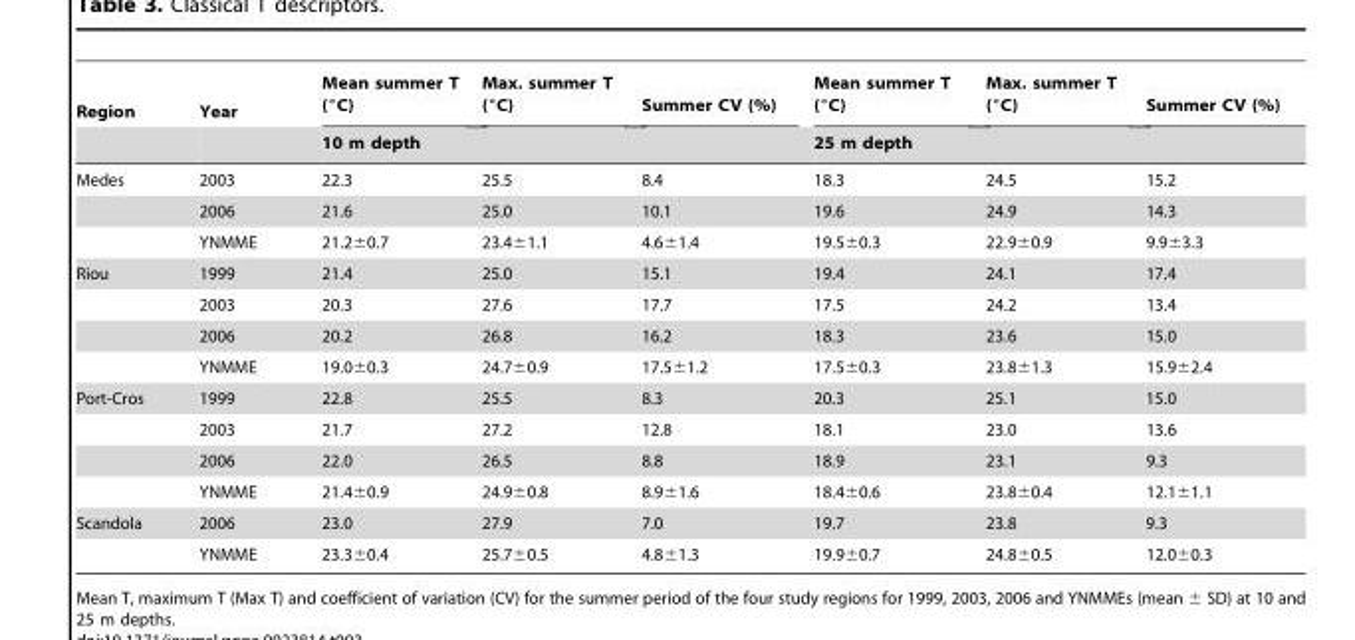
<table><thead><tr><td rowspan="2">Region</td><td rowspan="2">Year</td><td>Mean summer T (°C)</td><td>Max. summer T (°C)</td><td>Summer CV (%)</td><td>Mean summer T (°C)</td><td>Max. summer T (°C)</td><td>Summer CV (%)</td></tr><tr><td colspan="3">10 m depth</td><td colspan="3">25 m depth</td></tr></thead><tbody><tr><td rowspan="3">Medes</td><td>2003</td><td>22.3</td><td>25.5</td><td>8.4</td><td>18.3</td><td>24.5</td><td>15.2</td></tr><tr><td>2006</td><td>21.6</td><td>25.0</td><td>10.1</td><td>19.6</td><td>24.9</td><td>14.3</td></tr><tr><td>YNMME</td><td>21.2±0.7</td><td>23.4±1.1</td><td>4.6±1.4</td><td>19.5±0.3</td><td>22.9±0.9</td><td>9.9±3.3</td></tr><tr><td rowspan="4">Riou</td><td>1999</td><td>21.4</td><td>25.0</td><td>15.1</td><td>19.4</td><td>24.1</td><td>17.4</td></tr><tr><td>2003</td><td>20.3</td><td>27.6</td><td>17.7</td><td>17.5</td><td>24.2</td><td>13.4</td></tr><tr><td>2006</td><td>20.2</td><td>26.8</td><td>16.2</td><td>18.3</td><td>23.6</td><td>15.0</td></tr><tr><td>YNMME</td><td>19.0±0.3</td><td>24.7±0.9</td><td>17.5±1.2</td><td>17.5±0.3</td><td>23.8±1.3</td><td>15.9±2.4</td></tr><tr><td rowspan="4">Port-Cros</td><td>1999</td><td>22.8</td><td>25.5</td><td>8.3</td><td>20.3</td><td>25.1</td><td>15.0</td></tr><tr><td>2003</td><td>21.7</td><td>27.2</td><td>12.8</td><td>18.1</td><td>23.0</td><td>13.6</td></tr><tr><td>2006</td><td>22.0</td><td>26.5</td><td>8.8</td><td>18.9</td><td>23.1</td><td>9.3</td></tr><tr><td>YNMME</td><td>21.4±0.9</td><td>24.9±0.8</td><td>8.9±1.6</td><td>18.4±0.6</td><td>23.8±0.4</td><td>12.1±1.1</td></tr><tr><td rowspan="2">Scandola</td><td>2006</td><td>23.0</td><td>27.9</td><td>7.0</td><td>19.7</td><td>23.8</td><td>9.3</td></tr><tr><td>YNMME</td><td>23.3±0.4</td><td>25.7±0.5</td><td>4.8±1.3</td><td>19.9±0.7</td><td>24.8±0.5</td><td>12.0±0.3</td></tr></tbody></table>